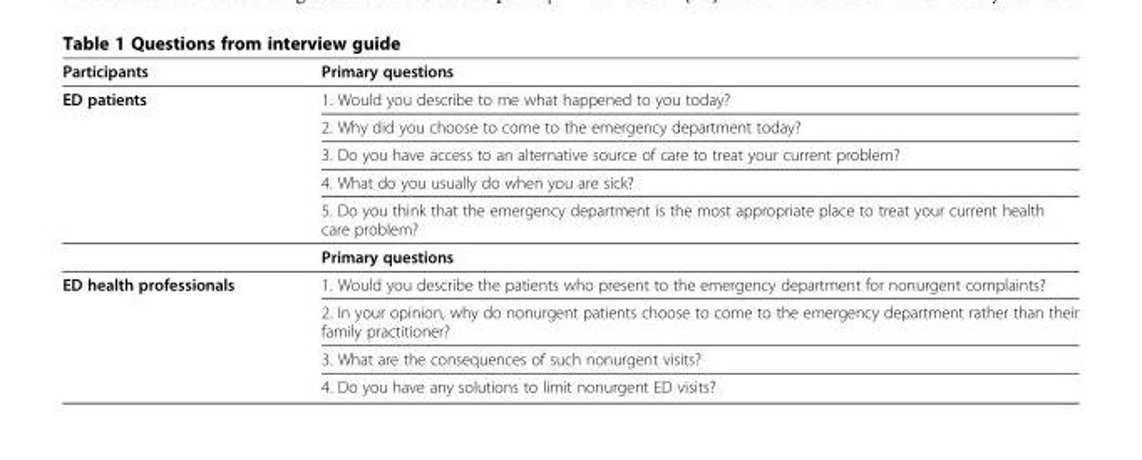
<table><thead><tr><td>Participants</td><td>Primary questions</td></tr></thead><tbody><tr><td rowspan="6">ED patients</td><td>1. Would you describe to me what happened to you today?</td></tr><tr><td>2. Why did you choose to come to the emergency department today?</td></tr><tr><td>3. Do you have access to an alternative source of care to treat your current problem?</td></tr><tr><td>4. What do you usually do when you are sick?</td></tr><tr><td>5. Do you think that the emergency department is the most appropriate place to treat your current health care problem?</td></tr><tr><td>Primary questions</td></tr><tr><td rowspan="4">ED health professionals</td><td>1. Would you describe the patients who present to the emergency department for nonurgent complaints?</td></tr><tr><td>2. In your opinion, why do nonurgent patients choose to come to the emergency department rather than their family practitioner?</td></tr><tr><td>3. What are the consequences of such nonurgent visits?</td></tr><tr><td>4. Do you have any solutions to limit nonurgent ED visits?</td></tr></tbody></table>